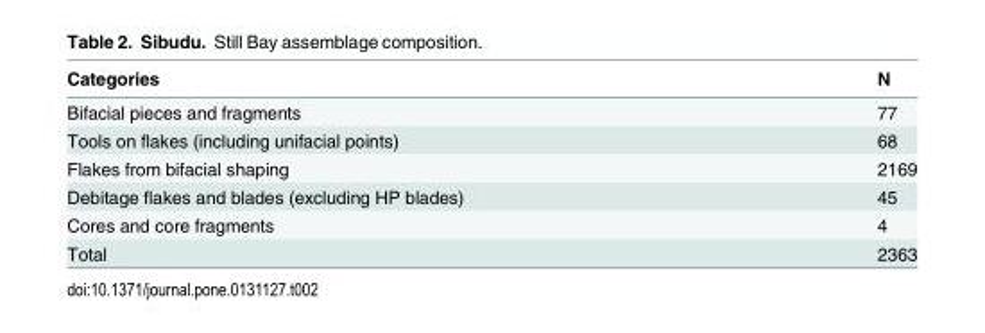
<table><thead><tr><td>Categories</td><td>N</td></tr></thead><tbody><tr><td>Bifacial pieces and fragments</td><td>77</td></tr><tr><td>Tools on flakes (including unifacial points)</td><td>68</td></tr><tr><td>Flakes from bifacial shaping</td><td>2169</td></tr><tr><td>Debitage flakes and blades (excluding HP blades)</td><td>45</td></tr><tr><td>Cores and core fragments</td><td>4</td></tr><tr><td>Total</td><td>2363</td></tr></tbody></table>